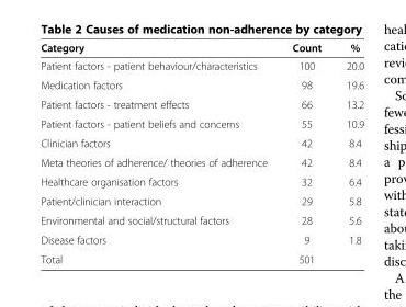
<table><thead><tr><td>Category</td><td>Count</td><td>%</td></tr></thead><tbody><tr><td>Patient factors - patient behaviour/characteristics</td><td>100</td><td>20.0</td></tr><tr><td>Medication factors</td><td>98</td><td>19.6</td></tr><tr><td>Patient factors - treatment effects</td><td>66</td><td>13.2</td></tr><tr><td>Patient factors - patient beliefs and concerns</td><td>55</td><td>10.9</td></tr><tr><td>Clinician factors</td><td>42</td><td>8.4</td></tr><tr><td>Meta theories of adherence/ theories of adherence</td><td>42</td><td>8.4</td></tr><tr><td>Healthcare organisation factors</td><td>32</td><td>6.4</td></tr><tr><td>Patient/clinician interaction</td><td>29</td><td>5.8</td></tr><tr><td>Environmental and social/structural factors</td><td>28</td><td>5.6</td></tr><tr><td>Disease factors</td><td>9</td><td>1.8</td></tr><tr><td>Total</td><td>501</td><td></td></tr></tbody></table>